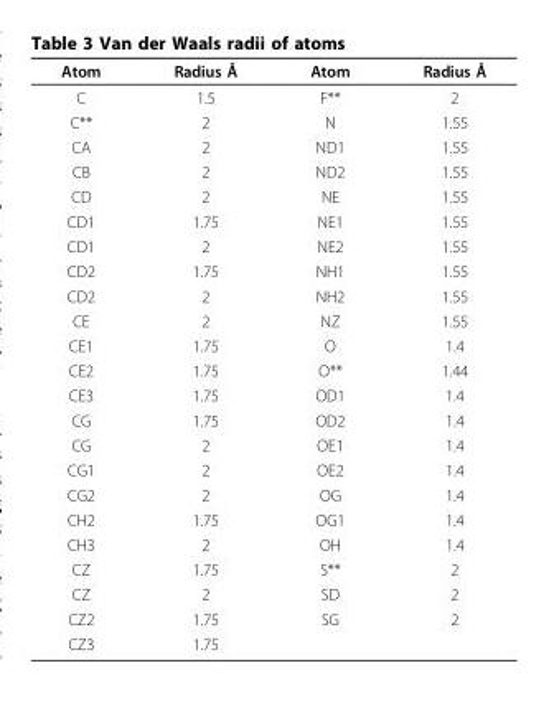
<table><thead><tr><td>Atom</td><td>Radius Å</td><td>Atom</td><td>Radius Å</td></tr></thead><tbody><tr><td>C</td><td>1.5</td><td>F**</td><td>2</td></tr><tr><td>C**</td><td>2</td><td>N</td><td>1.55</td></tr><tr><td>CA</td><td>2</td><td>ND1</td><td>1.55</td></tr><tr><td>CB</td><td>2</td><td>ND2</td><td>1.55</td></tr><tr><td>CD</td><td>2</td><td>NE</td><td>1.55</td></tr><tr><td>CD1</td><td>1.75</td><td>NE1</td><td>1.55</td></tr><tr><td>CD1</td><td>2</td><td>NE2</td><td>1.55</td></tr><tr><td>CD2</td><td>1.75</td><td>NH1</td><td>1.55</td></tr><tr><td>CD2</td><td>2</td><td>NH2</td><td>1.55</td></tr><tr><td>CE</td><td>2</td><td>NZ</td><td>1.55</td></tr><tr><td>CE1</td><td>1.75</td><td>O</td><td>1.4</td></tr><tr><td>CE2</td><td>1.75</td><td>O**</td><td>1.44</td></tr><tr><td>CE3</td><td>1.75</td><td>OD1</td><td>1.4</td></tr><tr><td>CG</td><td>1.75</td><td>OD2</td><td>1.4</td></tr><tr><td>CG</td><td>2</td><td>OE1</td><td>1.4</td></tr><tr><td>CG1</td><td>2</td><td>OE2</td><td>1.4</td></tr><tr><td>CG2</td><td>2</td><td>OG</td><td>1.4</td></tr><tr><td>CH2</td><td>1.75</td><td>OG1</td><td>1.4</td></tr><tr><td>CH3</td><td>2</td><td>OH</td><td>1.4</td></tr><tr><td>CZ</td><td>1.75</td><td>S**</td><td>2</td></tr><tr><td>CZ</td><td>2</td><td>SD</td><td>2</td></tr><tr><td>CZ2</td><td>1.75</td><td>SG</td><td>2</td></tr><tr><td>CZ3</td><td>1.75</td><td></td><td></td></tr></tbody></table>